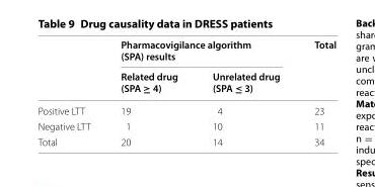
<table><thead><tr><td rowspan="2"></td><td colspan="2">Pharmacovigilance algorithm (SPA) results</td><td rowspan="2">Total</td></tr><tr><td>Related drug (SPA ≥ 4)</td><td>Unrelated drug (SPA ≤ 3)</td></tr></thead><tbody><tr><td>Positive LTT</td><td>19</td><td>4</td><td>23</td></tr><tr><td>Negative LTT</td><td>1</td><td>10</td><td>11</td></tr><tr><td>Total</td><td>20</td><td>14</td><td>34</td></tr></tbody></table>